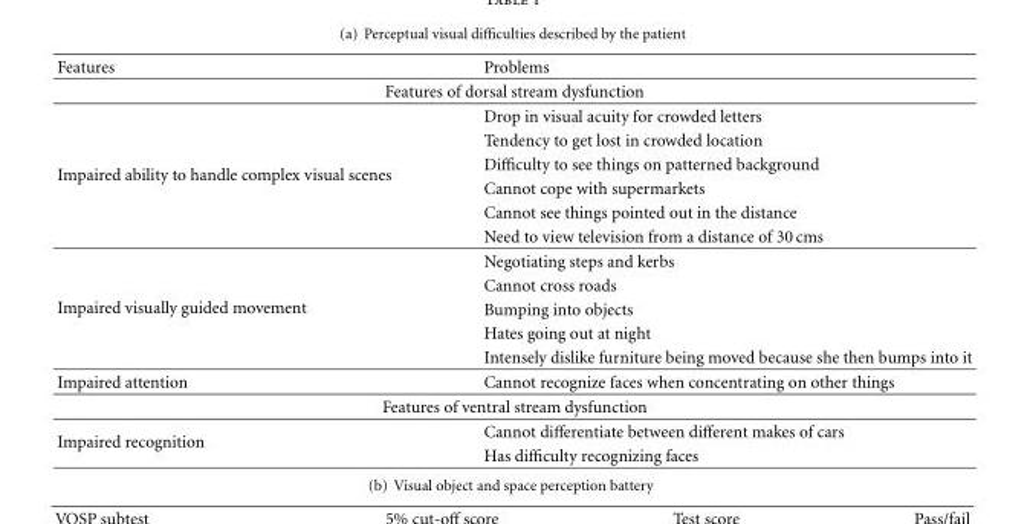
<table><thead><tr><td>Features</td><td>Problems</td></tr></thead><tbody><tr><td colspan="2">Features of dorsal stream dysfunction</td></tr><tr><td rowspan="6">Impaired ability to handle complex visual scenes</td><td>Drop in visual acuity for crowded letters</td></tr><tr><td>Tendency to get lost in crowded location</td></tr><tr><td>Difficulty to see things on patterned background</td></tr><tr><td>Cannot cope with supermarkets</td></tr><tr><td>Cannot see things pointed out in the distance</td></tr><tr><td>Need to view television from a distance of 30 cms</td></tr><tr><td rowspan="5">Impaired visually guided movement</td><td>Negotiating steps and kerbs</td></tr><tr><td>Cannot cross roads</td></tr><tr><td>Bumping into objects</td></tr><tr><td>Hates going out at night</td></tr><tr><td>Intensely dislike furniture being moved because she then bumps into it</td></tr><tr><td>Impaired attention</td><td>Cannot recognize faces when concentrating on other things</td></tr><tr><td colspan="2">Features of ventral stream dysfunction</td></tr><tr><td rowspan="2">Impaired recognition</td><td>Cannot differentiate between different makes of cars</td></tr><tr><td>Has difficulty recognizing faces</td></tr></tbody></table>